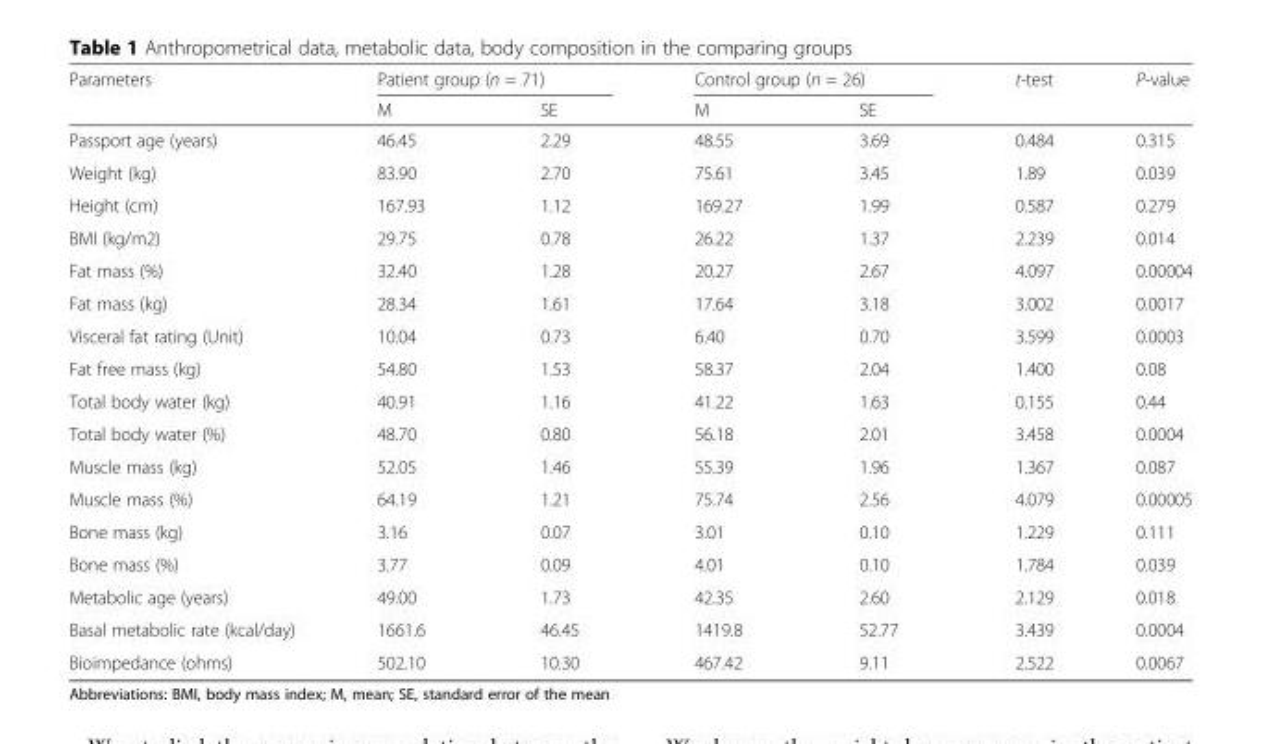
<table><thead><tr><td rowspan="2">Parameters</td><td colspan="2">Patient group (n = 71)</td><td colspan="2">Control group (n = 26)</td><td rowspan="2">t-test</td><td rowspan="2">P-value</td></tr><tr><td>M</td><td>SE</td><td>M</td><td>SE</td></tr></thead><tbody><tr><td>Passport age (years)</td><td>46.45</td><td>2.29</td><td>48.55</td><td>3.69</td><td>0.484</td><td>0.315</td></tr><tr><td>Weight (kg)</td><td>83.90</td><td>2.70</td><td>75.61</td><td>3.45</td><td>1.89</td><td>0.039</td></tr><tr><td>Height (cm)</td><td>167.93</td><td>1.12</td><td>169.27</td><td>1.99</td><td>0.587</td><td>0.279</td></tr><tr><td>BMI (kg/m2)</td><td>29.75</td><td>0.78</td><td>26.22</td><td>1.37</td><td>2.239</td><td>0.014</td></tr><tr><td>Fat mass (%)</td><td>32.40</td><td>1.28</td><td>20.27</td><td>2.67</td><td>4.097</td><td>0.00004</td></tr><tr><td>Fat mass (kg)</td><td>28.34</td><td>1.61</td><td>17.64</td><td>3.18</td><td>3.002</td><td>0.0017</td></tr><tr><td>Visceral fat rating (Unit)</td><td>10.04</td><td>0.73</td><td>6.40</td><td>0.70</td><td>3.599</td><td>0.0003</td></tr><tr><td>Fat free mass (kg)</td><td>54.80</td><td>1.53</td><td>58.37</td><td>2.04</td><td>1.400</td><td>0.08</td></tr><tr><td>Total body water (kg)</td><td>40.91</td><td>1.16</td><td>41.22</td><td>1.63</td><td>0.155</td><td>0.44</td></tr><tr><td>Total body water (%)</td><td>48.70</td><td>0.80</td><td>56.18</td><td>2.01</td><td>3.458</td><td>0.0004</td></tr><tr><td>Muscle mass (kg)</td><td>52.05</td><td>1.46</td><td>55.39</td><td>1.96</td><td>1.367</td><td>0.087</td></tr><tr><td>Muscle mass (%)</td><td>64.19</td><td>1.21</td><td>75.74</td><td>2.56</td><td>4.079</td><td>0.00005</td></tr><tr><td>Bone mass (kg)</td><td>3.16</td><td>0.07</td><td>3.01</td><td>0.10</td><td>1.229</td><td>0.111</td></tr><tr><td>Bone mass (%)</td><td>3.77</td><td>0.09</td><td>4.01</td><td>0.10</td><td>1.784</td><td>0.039</td></tr><tr><td>Metabolic age (years)</td><td>49.00</td><td>1.73</td><td>42.35</td><td>2.60</td><td>2.129</td><td>0.018</td></tr><tr><td>Basal metabolic rate (kcal/day)</td><td>1661.6</td><td>46.45</td><td>1419.8</td><td>52.77</td><td>3.439</td><td>0.0004</td></tr><tr><td>Bioimpedance (ohms)</td><td>502.10</td><td>10.30</td><td>467.42</td><td>9.11</td><td>2.522</td><td>0.0067</td></tr></tbody></table>